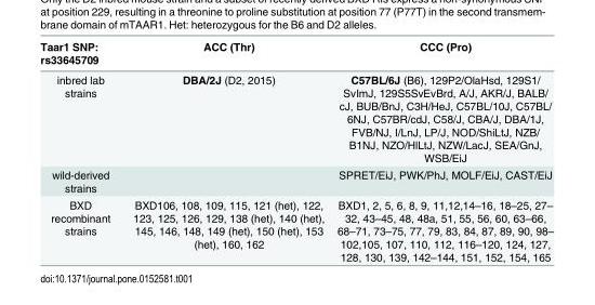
<table><thead><tr><td>Taar1 SNP: rs33645709</td><td>ACC (Thr)</td><td>CCC (Pro)</td></tr></thead><tbody><tr><td>inbred lab strains</td><td>DBA/2J (D2, 2015)</td><td>C57BL/6J (B6), 129P2/OlaHsd, 129S1/ SvImJ, 129S5SvEvBrd, A/J, AKR/J, BALB/ cJ, BUB/BnJ, C3H/HeJ, C57BL/10J, C57BL/ 6NJ, C57BR/cdJ, C58/J, CBA/J, DBA/1J, FVB/NJ, I/LnJ, LP/J, NOD/ShiLtJ, NZB/ B1NJ, NZO/HlLtJ, NZW/LacJ, SEA/GnJ, WSB/EiJ</td></tr><tr><td>wild-derived strains</td><td></td><td>SPRET/EiJ, PWK/PhJ, MOLF/EiJ, CAST/EiJ</td></tr><tr><td>BXD recombinant strains</td><td>BXD106, 108, 109, 115, 121 (het), 122, 123, 125, 126, 129, 138 (het), 140 (het), 145, 146, 148, 149 (het), 150 (het), 153 (het), 160, 162</td><td>BXD1, 2, 5, 6, 8, 9, 11,12,14–16, 18–25, 27– 32, 43–45, 48, 48a, 51, 55, 56, 60, 63–66, 68–71, 73–75, 77, 79, 83, 84, 87, 89, 90, 98– 102,105, 107, 110, 112, 116–120, 124, 127, 128, 130, 139, 142–144, 151, 152, 154, 165</td></tr></tbody></table>